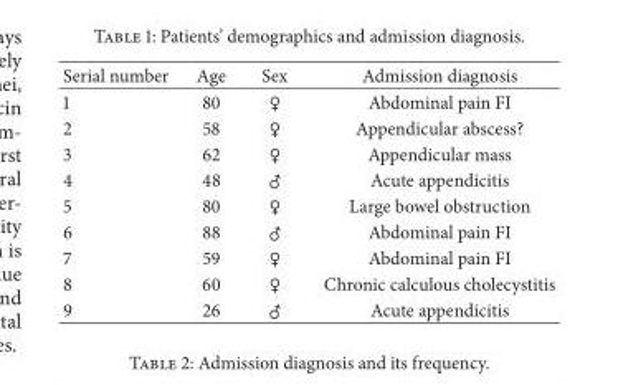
<table><thead><tr><td>Serial number</td><td>Age</td><td>Sex</td><td>Admission diagnosis</td></tr></thead><tbody><tr><td>1</td><td>80</td><td>♀</td><td>Abdominal pain FI</td></tr><tr><td>2</td><td>58</td><td>♀</td><td>Appendicular abscess?</td></tr><tr><td>3</td><td>62</td><td>♀</td><td>Appendicular mass</td></tr><tr><td>4</td><td>48</td><td>♂</td><td>Acute appendicitis</td></tr><tr><td>5</td><td>80</td><td>♀</td><td>Large bowel obstruction</td></tr><tr><td>6</td><td>88</td><td>♂</td><td>Abdominal pain FI</td></tr><tr><td>7</td><td>59</td><td>♀</td><td>Abdominal pain FI</td></tr><tr><td>8</td><td>60</td><td>♀</td><td>Chronic calculous cholecystitis</td></tr><tr><td>9</td><td>26</td><td>♂</td><td>Acute appendicitis</td></tr></tbody></table>